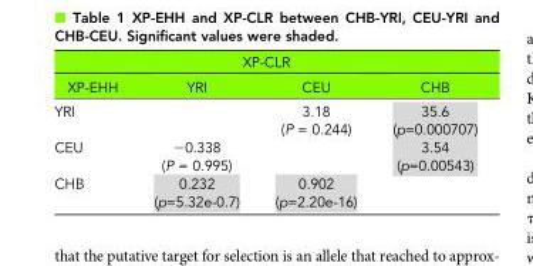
<table><thead><tr><td colspan="4">XP-CLR</td></tr><tr><td>XP-EHH</td><td>YRI</td><td>CEU</td><td>CHB</td></tr></thead><tbody><tr><td>YRI</td><td></td><td>3.18 (P = 0.244)</td><td>35.6 (p=0.000707)</td></tr><tr><td>CEU</td><td>−0.338 (P = 0.995)</td><td></td><td>3.54 (p=0.00543)</td></tr><tr><td>CHB</td><td>0.232 (p=5.32e-0.7)</td><td>0.902 (p=2.20e-16)</td><td></td></tr></tbody></table>